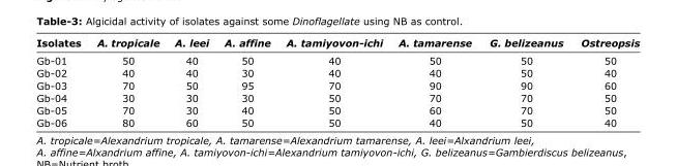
<table><thead><tr><td>Isolates</td><td>A. tropicale</td><td>A. leei</td><td>A. affine</td><td>A. tamiyovon-ichi</td><td>A. tamarense</td><td>G. belizeanus</td><td>Ostreopsis</td></tr></thead><tbody><tr><td>Gb-01</td><td>50</td><td>40</td><td>50</td><td>40</td><td>50</td><td>50</td><td>50</td></tr><tr><td>Gb-02</td><td>40</td><td>40</td><td>30</td><td>40</td><td>40</td><td>50</td><td>40</td></tr><tr><td>Gb-03</td><td>70</td><td>50</td><td>95</td><td>70</td><td>90</td><td>90</td><td>60</td></tr><tr><td>Gb-04</td><td>30</td><td>30</td><td>30</td><td>50</td><td>70</td><td>70</td><td>50</td></tr><tr><td>Gb-05</td><td>70</td><td>30</td><td>40</td><td>50</td><td>60</td><td>70</td><td>50</td></tr><tr><td>Gb-06</td><td>80</td><td>60</td><td>50</td><td>50</td><td>40</td><td>50</td><td>40</td></tr></tbody></table>